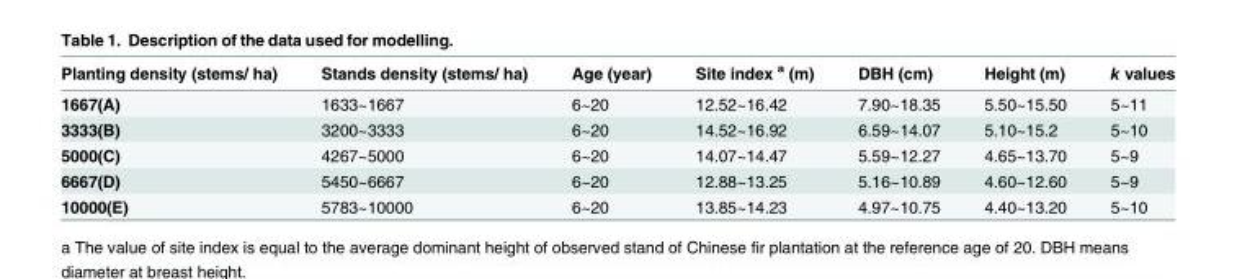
<table><thead><tr><td>Planting density (stems/ ha)</td><td>Stands density (stems/ ha)</td><td>Age (year)</td><td>Site index <sup>a</sup> (m)</td><td>DBH (cm)</td><td>Height (m)</td><td>k values</td></tr></thead><tbody><tr><td>1667(A)</td><td>1633~1667</td><td>6~20</td><td>12.52~16.42</td><td>7.90~18.35</td><td>5.50~15.50</td><td>5~11</td></tr><tr><td>3333(B)</td><td>3200~3333</td><td>6~20</td><td>14.52~16.92</td><td>6.59~14.07</td><td>5.10~15.2</td><td>5~10</td></tr><tr><td>5000(C)</td><td>4267~5000</td><td>6~20</td><td>14.07~14.47</td><td>5.59~12.27</td><td>4.65~13.70</td><td>5~9</td></tr><tr><td>6667(D)</td><td>5450~6667</td><td>6~20</td><td>12.88~13.25</td><td>5.16~10.89</td><td>4.60~12.60</td><td>5~9</td></tr><tr><td>10000(E)</td><td>5783~10000</td><td>6~20</td><td>13.85~14.23</td><td>4.97~10.75</td><td>4.40~13.20</td><td>5~10</td></tr></tbody></table>